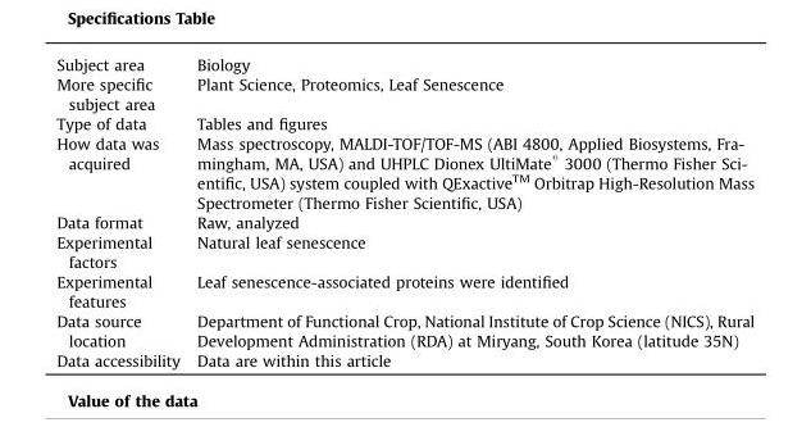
<table><tbody><tr><td>Subject area</td><td>Biology</td></tr><tr><td>More specific subject area</td><td>Plant Science, Proteomics, Leaf Senescence</td></tr><tr><td>Type of data</td><td>Tables and figures</td></tr><tr><td>How data was acquired</td><td>Mass spectroscopy, MALDI-TOF/TOF-MS (ABI 4800, Applied Biosystems, Fra- mingham, MA, USA) and UHPLC Dionex UltiMate s 3000 (Thermo Fisher Sci- entific, USA) system coupled with QExactiveTM Orbitrap High-Resolution Mass Spectrometer (Thermo Fisher Scientific, USA)</td></tr><tr><td>Data format</td><td>Raw, analyzed</td></tr><tr><td>Experimental factors</td><td>Natural leaf senescence</td></tr><tr><td>Experimental features</td><td>Leaf senescence-associated proteins were identified</td></tr><tr><td>Data source location</td><td>Department of Functional Crop, National Institute of Crop Science (NICS), Rural Development Administration (RDA) at Miryang, South Korea (latitude 35N)</td></tr><tr><td>Data accessibility</td><td>Data are within this article</td></tr></tbody></table>